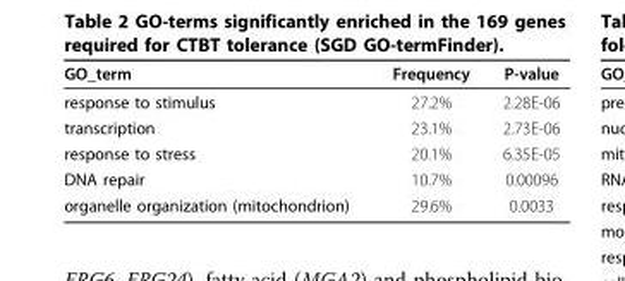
<table><thead><tr><td>GO_term</td><td>Frequency</td><td>P-value</td></tr></thead><tbody><tr><td>response to stimulus</td><td>27.2%</td><td>2.28E-06</td></tr><tr><td>transcription</td><td>23.1%</td><td>2.73E-06</td></tr><tr><td>response to stress</td><td>20.1%</td><td>6.35E-05</td></tr><tr><td>DNA repair</td><td>10.7%</td><td>0.00096</td></tr><tr><td>organelle organization (mitochondrion)</td><td>29.6%</td><td>0.0033</td></tr></tbody></table>